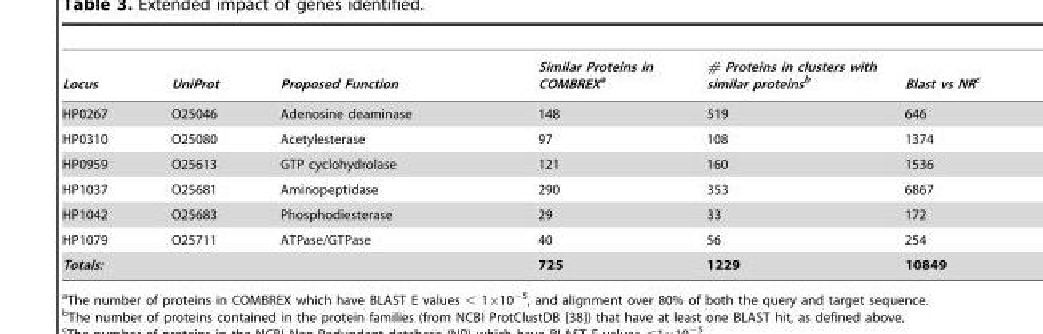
<table><thead><tr><td>Locus</td><td>UniProt</td><td>Proposed Function</td><td>Similar Proteins in COMBREX<sup>a</sup></td><td># Proteins in clusters with similar proteins<sup>b</sup></td><td>Blast vs NR<sup>c</sup></td></tr></thead><tbody><tr><td>HP0267</td><td>O25046</td><td>Adenosine deaminase</td><td>148</td><td>519</td><td>646</td></tr><tr><td>HP0310</td><td>O25080</td><td>Acetylesterase</td><td>97</td><td>108</td><td>1374</td></tr><tr><td>HP0959</td><td>O25613</td><td>GTP cyclohydrolase</td><td>121</td><td>160</td><td>1536</td></tr><tr><td>HP1037</td><td>O25681</td><td>Aminopeptidase</td><td>290</td><td>353</td><td>6867</td></tr><tr><td>HP1042</td><td>O25683</td><td>Phosphodiesterase</td><td>29</td><td>33</td><td>172</td></tr><tr><td>HP1079</td><td>O25711</td><td>ATPase/GTPase</td><td>40</td><td>56</td><td>254</td></tr><tr><td colspan="3">Totals:</td><td>725</td><td>1229</td><td>10849</td></tr></tbody></table>